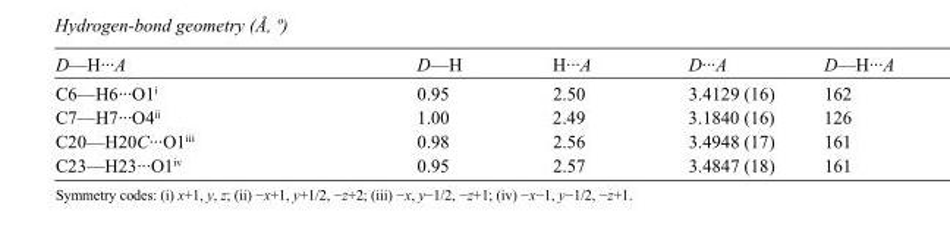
<table><tbody><tr><td>D—H···A</td><td>D—H</td><td>H···A</td><td>D···A</td><td>D—H···A</td></tr><tr><td>C6—H6···O1<sup>i</sup></td><td>0.95</td><td>2.50</td><td>3.4129 (16)</td><td>162</td></tr><tr><td>C7—H7···O4<sup>ii</sup></td><td>1.00</td><td>2.49</td><td>3.1840 (16)</td><td>126</td></tr><tr><td>C20—H20C···O1<sup>iii</sup></td><td>0.98</td><td>2.56</td><td>3.4948 (17)</td><td>161</td></tr><tr><td>C23—H23···O1<sup>iv</sup></td><td>0.95</td><td>2.57</td><td>3.4847 (18)</td><td>161</td></tr></tbody></table>